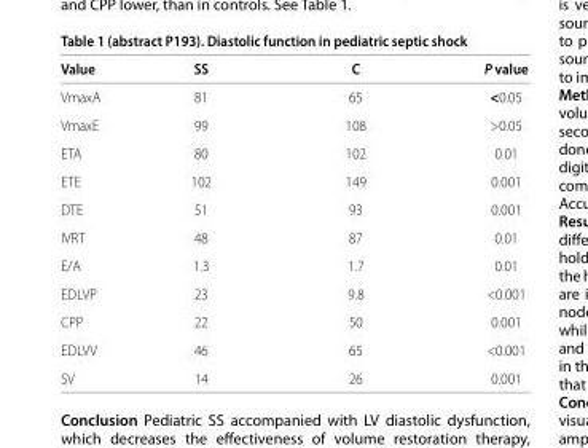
<table><thead><tr><td>Value</td><td>SS</td><td>C</td><td>P value</td></tr></thead><tbody><tr><td>VmaxA</td><td>81</td><td>65</td><td>&lt;0.05</td></tr><tr><td>VmaxE</td><td>99</td><td>108</td><td>&gt;0.05</td></tr><tr><td>ETA</td><td>80</td><td>102</td><td>0.01</td></tr><tr><td>ETE</td><td>102</td><td>149</td><td>0.001</td></tr><tr><td>DTE</td><td>51</td><td>93</td><td>0.001</td></tr><tr><td>IVRT</td><td>48</td><td>87</td><td>0.01</td></tr><tr><td>E/A</td><td>1.3</td><td>1.7</td><td>0.01</td></tr><tr><td>EDLVP</td><td>23</td><td>9.8</td><td>&lt;0.001</td></tr><tr><td>CPP</td><td>22</td><td>50</td><td>0.001</td></tr><tr><td>EDLVV</td><td>46</td><td>65</td><td>&lt;0.001</td></tr><tr><td>SV</td><td>14</td><td>26</td><td>0.001</td></tr></tbody></table>